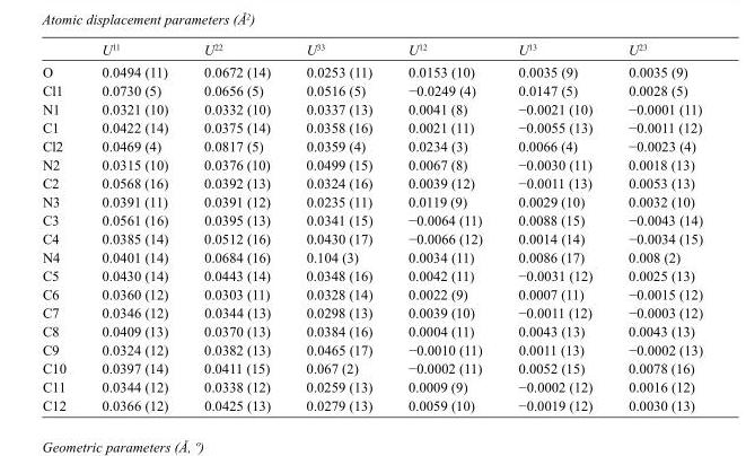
<table><thead><tr><td></td><td>U<sup>11</sup></td><td>U<sup>22</sup></td><td>U<sup>33</sup></td><td>U<sup>12</sup></td><td>U<sup>13</sup></td><td>U<sup>23</sup></td></tr></thead><tbody><tr><td>O</td><td>0.0494 (11)</td><td>0.0672 (14)</td><td>0.0253 (11)</td><td>0.0153 (10)</td><td>0.0035 (9)</td><td>0.0035 (9)</td></tr><tr><td>Cl1</td><td>0.0730 (5)</td><td>0.0656 (5)</td><td>0.0516 (5)</td><td>−0.0249 (4)</td><td>0.0147 (5)</td><td>0.0028 (5)</td></tr><tr><td>N1</td><td>0.0321 (10)</td><td>0.0332 (10)</td><td>0.0337 (13)</td><td>0.0041 (8)</td><td>−0.0021 (10)</td><td>−0.0001 (11)</td></tr><tr><td>C1</td><td>0.0422 (14)</td><td>0.0375 (14)</td><td>0.0358 (16)</td><td>0.0021 (11)</td><td>−0.0055 (13)</td><td>−0.0011 (12)</td></tr><tr><td>Cl2</td><td>0.0469 (4)</td><td>0.0817 (5)</td><td>0.0359 (4)</td><td>0.0234 (3)</td><td>0.0066 (4)</td><td>−0.0023 (4)</td></tr><tr><td>N2</td><td>0.0315 (10)</td><td>0.0376 (10)</td><td>0.0499 (15)</td><td>0.0067 (8)</td><td>−0.0030 (11)</td><td>0.0018 (13)</td></tr><tr><td>C2</td><td>0.0568 (16)</td><td>0.0392 (13)</td><td>0.0324 (16)</td><td>0.0039 (12)</td><td>−0.0011 (13)</td><td>0.0053 (13)</td></tr><tr><td>N3</td><td>0.0391 (11)</td><td>0.0391 (12)</td><td>0.0235 (11)</td><td>0.0119 (9)</td><td>0.0029 (10)</td><td>0.0032 (10)</td></tr><tr><td>C3</td><td>0.0561 (16)</td><td>0.0395 (13)</td><td>0.0341 (15)</td><td>−0.0064 (11)</td><td>0.0088 (15)</td><td>−0.0043 (14)</td></tr><tr><td>C4</td><td>0.0385 (14)</td><td>0.0512 (16)</td><td>0.0430 (17)</td><td>−0.0066 (12)</td><td>0.0014 (14)</td><td>−0.0034 (15)</td></tr><tr><td>N4</td><td>0.0401 (14)</td><td>0.0684 (16)</td><td>0.104 (3)</td><td>0.0034 (11)</td><td>0.0086 (17)</td><td>0.008 (2)</td></tr><tr><td>C5</td><td>0.0430 (14)</td><td>0.0443 (14)</td><td>0.0348 (16)</td><td>0.0042 (11)</td><td>−0.0031 (12)</td><td>0.0025 (13)</td></tr><tr><td>C6</td><td>0.0360 (12)</td><td>0.0303 (11)</td><td>0.0328 (14)</td><td>0.0022 (9)</td><td>0.0007 (11)</td><td>−0.0015 (12)</td></tr><tr><td>C7</td><td>0.0346 (12)</td><td>0.0344 (13)</td><td>0.0298 (13)</td><td>0.0039 (10)</td><td>−0.0011 (12)</td><td>−0.0003 (12)</td></tr><tr><td>C8</td><td>0.0409 (13)</td><td>0.0370 (13)</td><td>0.0384 (16)</td><td>0.0004 (11)</td><td>0.0043 (13)</td><td>0.0043 (13)</td></tr><tr><td>C9</td><td>0.0324 (12)</td><td>0.0382 (13)</td><td>0.0465 (17)</td><td>−0.0010 (11)</td><td>0.0011 (13)</td><td>−0.0002 (13)</td></tr><tr><td>C10</td><td>0.0397 (14)</td><td>0.0411 (15)</td><td>0.067 (2)</td><td>−0.0002 (11)</td><td>0.0052 (15)</td><td>0.0078 (16)</td></tr><tr><td>C11</td><td>0.0344 (12)</td><td>0.0338 (12)</td><td>0.0259 (13)</td><td>0.0009 (9)</td><td>−0.0002 (12)</td><td>0.0016 (12)</td></tr><tr><td>C12</td><td>0.0366 (12)</td><td>0.0425 (13)</td><td>0.0279 (13)</td><td>0.0059 (10)</td><td>−0.0019 (12)</td><td>0.0030 (13)</td></tr></tbody></table>